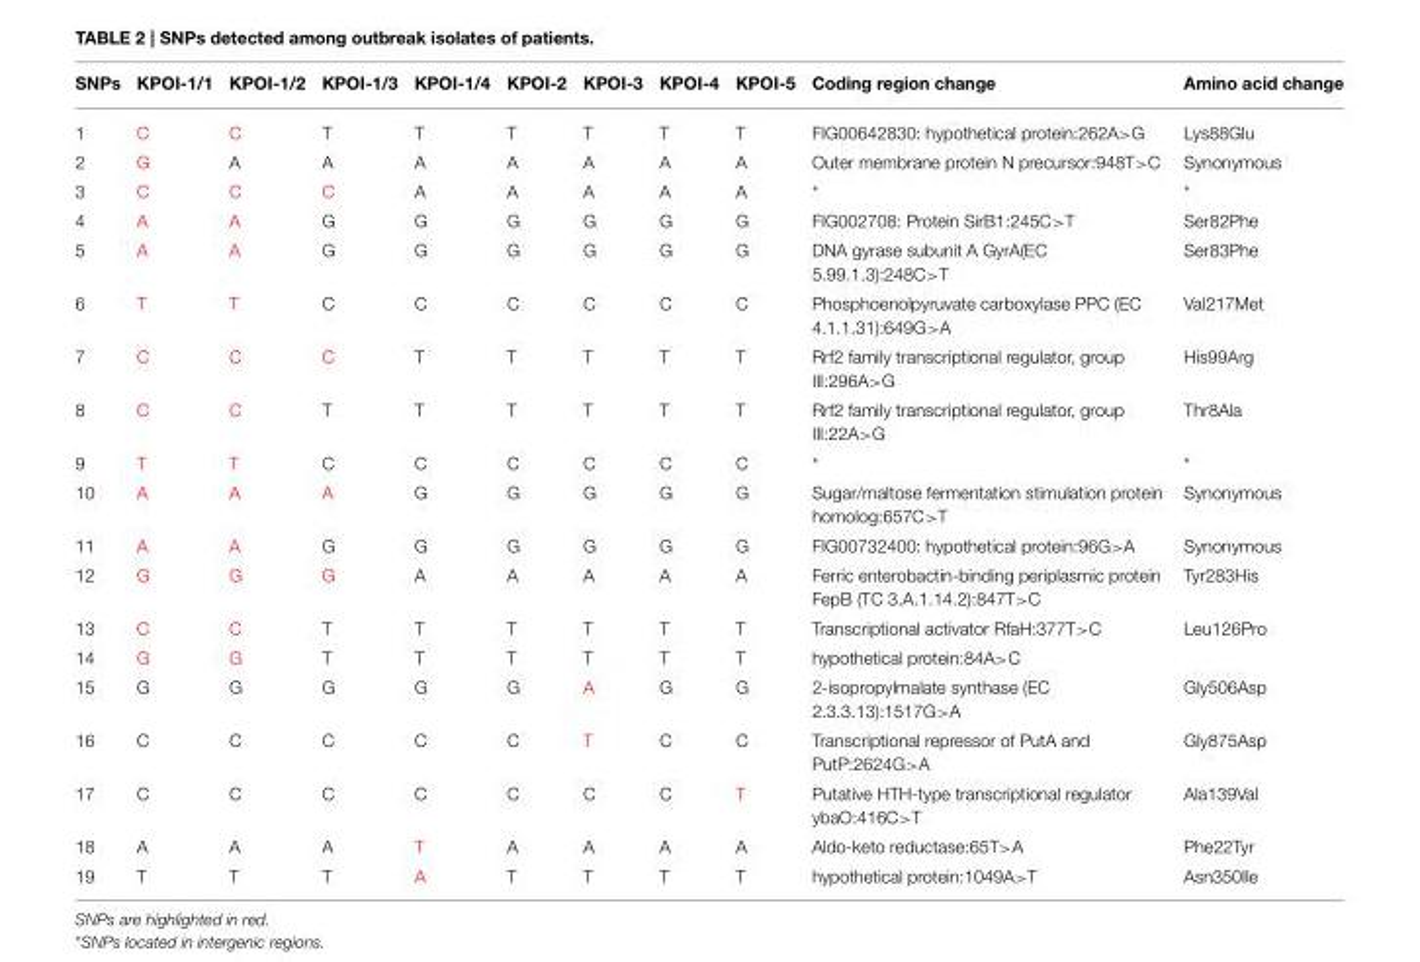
<table><thead><tr><td>SNPs</td><td>KPOI-1/1</td><td>KPOI-1/2</td><td>KPOI-1/3</td><td>KPOI-1/4</td><td>KPOI-2</td><td>KPOI-3</td><td>KPOI-4</td><td>KPOI-5</td><td>Coding region change</td><td>Amino acid change</td></tr></thead><tbody><tr><td>1</td><td>C</td><td>C</td><td>T</td><td>T</td><td>T</td><td>T</td><td>T</td><td>T</td><td>FIG00642830: hypothetical protein:262A&gt;G</td><td>Lys88Glu</td></tr><tr><td>2</td><td>G</td><td>A</td><td>A</td><td>A</td><td>A</td><td>A</td><td>A</td><td>A</td><td>Outer membrane protein N precursor:948T&gt;C</td><td>Synonymous</td></tr><tr><td>3</td><td>C</td><td>C</td><td>C</td><td>A</td><td>A</td><td>A</td><td>A</td><td>A</td><td>*</td><td>*</td></tr><tr><td>4</td><td>A</td><td>A</td><td>G</td><td>G</td><td>G</td><td>G</td><td>G</td><td>G</td><td>FIG002708: Protein SirB1:245C&gt;T</td><td>Ser82Phe</td></tr><tr><td>5</td><td>A</td><td>A</td><td>G</td><td>G</td><td>G</td><td>G</td><td>G</td><td>G</td><td>DNA gyrase subunit A GyrA(EC 5.99.1.3):248C&gt;T</td><td>Ser83Phe</td></tr><tr><td>6</td><td>T</td><td>T</td><td>C</td><td>C</td><td>C</td><td>C</td><td>C</td><td>C</td><td>Phosphoenolpyruvate carboxylase PPC (EC 4.1.1.31):649G&gt;A</td><td>Val217Met</td></tr><tr><td>7</td><td>C</td><td>C</td><td>C</td><td>T</td><td>T</td><td>T</td><td>T</td><td>T</td><td>Rrf2 family transcriptional regulator, group III:296A&gt;G</td><td>His99Arg</td></tr><tr><td>8</td><td>C</td><td>C</td><td>T</td><td>T</td><td>T</td><td>T</td><td>T</td><td>T</td><td>Rrf2 family transcriptional regulator, group III:22A&gt;G</td><td>Thr8Ala</td></tr><tr><td>9</td><td>T</td><td>T</td><td>C</td><td>C</td><td>C</td><td>C</td><td>C</td><td>C</td><td>*</td><td>*</td></tr><tr><td>10</td><td>A</td><td>A</td><td>A</td><td>G</td><td>G</td><td>G</td><td>G</td><td>G</td><td>Sugar/maltose fermentation stimulation protein homolog:657C&gt;T</td><td>Synonymous</td></tr><tr><td>11</td><td>A</td><td>A</td><td>G</td><td>G</td><td>G</td><td>G</td><td>G</td><td>G</td><td>FIG00732400: hypothetical protein:96G&gt;A</td><td>Synonymous</td></tr><tr><td>12</td><td>G</td><td>G</td><td>G</td><td>A</td><td>A</td><td>A</td><td>A</td><td>A</td><td>Ferric enterobactin-binding periplasmic protein FepB (TC 3.A.1.14.2):847T&gt;C</td><td>Tyr283His</td></tr><tr><td>13</td><td>C</td><td>C</td><td>T</td><td>T</td><td>T</td><td>T</td><td>T</td><td>T</td><td>Transcriptional activator RfaH:377T&gt;C</td><td>Leu126Pro</td></tr><tr><td>14</td><td>G</td><td>G</td><td>T</td><td>T</td><td>T</td><td>T</td><td>T</td><td>T</td><td>hypothetical protein:84A&gt;C</td><td></td></tr><tr><td>15</td><td>G</td><td>G</td><td>G</td><td>G</td><td>G</td><td>A</td><td>G</td><td>G</td><td>2-isopropylmalate synthase (EC 2.3.3.13):1517G&gt;A</td><td>Gly506Asp</td></tr><tr><td>16</td><td>C</td><td>C</td><td>C</td><td>C</td><td>C</td><td>T</td><td>C</td><td>C</td><td>Transcriptional repressor of PutA and PutP:2624G&gt;A</td><td>Gly875Asp</td></tr><tr><td>17</td><td>C</td><td>C</td><td>C</td><td>C</td><td>C</td><td>C</td><td>C</td><td>T</td><td>Putative HTH-type transcriptional regulator ybaO:416C&gt;T</td><td>Ala139Val</td></tr><tr><td>18</td><td>A</td><td>A</td><td>A</td><td>T</td><td>A</td><td>A</td><td>A</td><td>A</td><td>Aldo-keto reductase:65T&gt;A</td><td>Phe22Tyr</td></tr><tr><td>19</td><td>T</td><td>T</td><td>T</td><td>A</td><td>T</td><td>T</td><td>T</td><td>T</td><td>hypothetical protein:1049A&gt;T</td><td>Asn350Ile</td></tr></tbody></table>